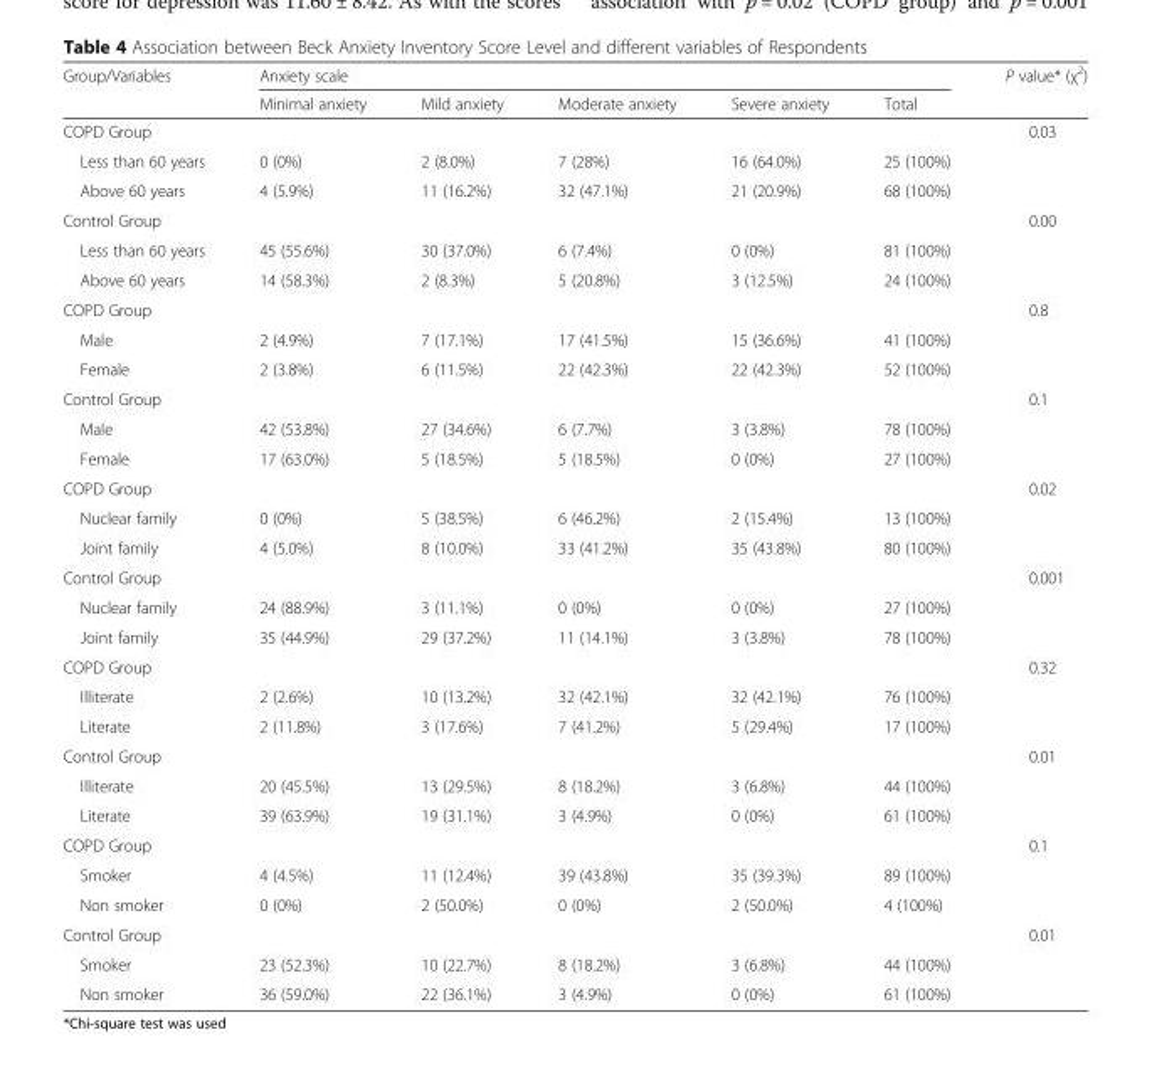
<table><thead><tr><td rowspan="2">Group/Variables</td><td colspan="5">Anxiety scale</td><td rowspan="2">P value* (χ<sup>2</sup>)</td></tr><tr><td>Minimal anxiety</td><td>Mild anxiety</td><td>Moderate anxiety</td><td>Severe anxiety</td><td>Total</td></tr></thead><tbody><tr><td colspan="6">COPD Group</td><td rowspan="3">0.03</td></tr><tr><td>Less than 60 years</td><td>0 (0%)</td><td>2 (8.0%)</td><td>7 (28%)</td><td>16 (64.0%)</td><td>25 (100%)</td></tr><tr><td>Above 60 years</td><td>4 (5.9%)</td><td>11 (16.2%)</td><td>32 (47.1%)</td><td>21 (20.9%)</td><td>68 (100%)</td></tr><tr><td colspan="6">Control Group</td><td rowspan="3">0.00</td></tr><tr><td>Less than 60 years</td><td>45 (55.6%)</td><td>30 (37.0%)</td><td>6 (7.4%)</td><td>0 (0%)</td><td>81 (100%)</td></tr><tr><td>Above 60 years</td><td>14 (58.3%)</td><td>2 (8.3%)</td><td>5 (20.8%)</td><td>3 (12.5%)</td><td>24 (100%)</td></tr><tr><td colspan="6">COPD Group</td><td rowspan="3">0.8</td></tr><tr><td>Male</td><td>2 (4.9%)</td><td>7 (17.1%)</td><td>17 (41.5%)</td><td>15 (36.6%)</td><td>41 (100%)</td></tr><tr><td>Female</td><td>2 (3.8%)</td><td>6 (11.5%)</td><td>22 (42.3%)</td><td>22 (42.3%)</td><td>52 (100%)</td></tr><tr><td colspan="6">Control Group</td><td rowspan="3">0.1</td></tr><tr><td>Male</td><td>42 (53.8%)</td><td>27 (34.6%)</td><td>6 (7.7%)</td><td>3 (3.8%)</td><td>78 (100%)</td></tr><tr><td>Female</td><td>17 (63.0%)</td><td>5 (18.5%)</td><td>5 (18.5%)</td><td>0 (0%)</td><td>27 (100%)</td></tr><tr><td colspan="6">COPD Group</td><td rowspan="3">0.02</td></tr><tr><td>Nuclear family</td><td>0 (0%)</td><td>5 (38.5%)</td><td>6 (46.2%)</td><td>2 (15.4%)</td><td>13 (100%)</td></tr><tr><td>Joint family</td><td>4 (5.0%)</td><td>8 (10.0%)</td><td>33 (41.2%)</td><td>35 (43.8%)</td><td>80 (100%)</td></tr><tr><td colspan="6">Control Group</td><td rowspan="3">0.001</td></tr><tr><td>Nuclear family</td><td>24 (88.9%)</td><td>3 (11.1%)</td><td>0 (0%)</td><td>0 (0%)</td><td>27 (100%)</td></tr><tr><td>Joint family</td><td>35 (44.9%)</td><td>29 (37.2%)</td><td>11 (14.1%)</td><td>3 (3.8%)</td><td>78 (100%)</td></tr><tr><td colspan="6">COPD Group</td><td rowspan="3">0.32</td></tr><tr><td>Illiterate</td><td>2 (2.6%)</td><td>10 (13.2%)</td><td>32 (42.1%)</td><td>32 (42.1%)</td><td>76 (100%)</td></tr><tr><td>Literate</td><td>2 (11.8%)</td><td>3 (17.6%)</td><td>7 (41.2%)</td><td>5 (29.4%)</td><td>17 (100%)</td></tr><tr><td colspan="6">Control Group</td><td rowspan="3">0.01</td></tr><tr><td>Illiterate</td><td>20 (45.5%)</td><td>13 (29.5%)</td><td>8 (18.2%)</td><td>3 (6.8%)</td><td>44 (100%)</td></tr><tr><td>Literate</td><td>39 (63.9%)</td><td>19 (31.1%)</td><td>3 (4.9%)</td><td>0 (0%)</td><td>61 (100%)</td></tr><tr><td colspan="6">COPD Group</td><td rowspan="3">0.1</td></tr><tr><td>Smoker</td><td>4 (4.5%)</td><td>11 (12.4%)</td><td>39 (43.8%)</td><td>35 (39.3%)</td><td>89 (100%)</td></tr><tr><td>Non smoker</td><td>0 (0%)</td><td>2 (50.0%)</td><td>0 (0%)</td><td>2 (50.0%)</td><td>4 (100%)</td></tr><tr><td colspan="6">Control Group</td><td rowspan="3">0.01</td></tr><tr><td>Smoker</td><td>23 (52.3%)</td><td>10 (22.7%)</td><td>8 (18.2%)</td><td>3 (6.8%)</td><td>44 (100%)</td></tr><tr><td>Non smoker</td><td>36 (59.0%)</td><td>22 (36.1%)</td><td>3 (4.9%)</td><td>0 (0%)</td><td>61 (100%)</td></tr></tbody></table>